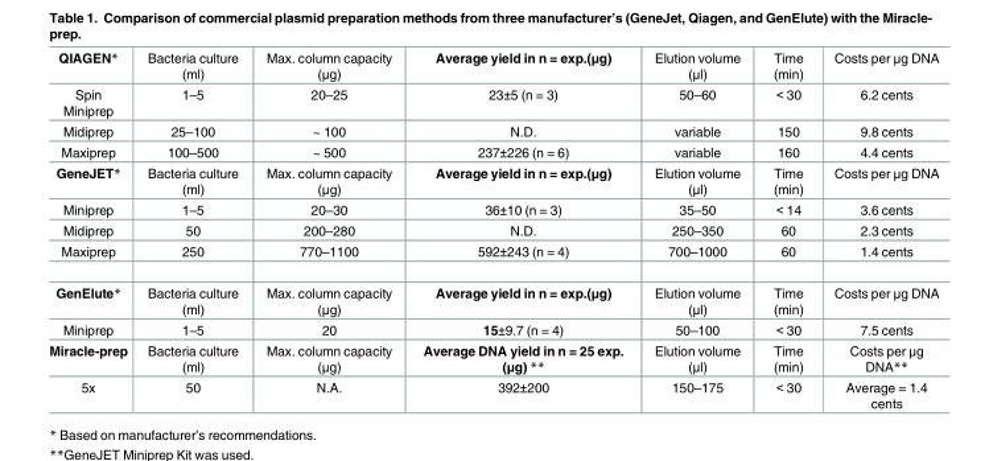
<table><tbody><tr><td>QIAGEN*</td><td>Bacteria culture (ml)</td><td>Max. column capacity (μg)</td><td>Average yield in n = exp.(μg)</td><td>Elution volume (μl)</td><td>Time (min)</td><td>Costs per μg DNA</td></tr><tr><td>Spin Miniprep</td><td>1–5</td><td>20–25</td><td>23±5 (n = 3)</td><td>50–60</td><td>&lt; 30</td><td>6.2 cents</td></tr><tr><td>Midiprep</td><td>25–100</td><td>~ 100</td><td>N.D.</td><td>variable</td><td>150</td><td>9.8 cents</td></tr><tr><td>Maxiprep</td><td>100–500</td><td>~ 500</td><td>237±226 (n = 6)</td><td>variable</td><td>160</td><td>4.4 cents</td></tr><tr><td>GeneJET*</td><td>Bacteria culture (ml)</td><td>Max. column capacity (μg)</td><td>Average yield in n = exp.(μg)</td><td>Elution volume (μl)</td><td>Time (min)</td><td>Costs per μg DNA</td></tr><tr><td>Miniprep</td><td>1–5</td><td>20–30</td><td>36±10 (n = 3)</td><td>35–50</td><td>&lt; 14</td><td>3.6 cents</td></tr><tr><td>Midiprep</td><td>50</td><td>200–280</td><td>N.D.</td><td>250–350</td><td>60</td><td>2.3 cents</td></tr><tr><td>Maxiprep</td><td>250</td><td>770–1100</td><td>592±243 (n = 4)</td><td>700–1000</td><td>60</td><td>1.4 cents</td></tr><tr><td>GenElute*</td><td>Bacteria culture (ml)</td><td>Max. column capacity (μg)</td><td>Average yield in n = exp.(μg)</td><td>Elution volume (μl)</td><td>Time (min)</td><td>Costs per μg DNA</td></tr><tr><td>Miniprep</td><td>1–5</td><td>20</td><td>15±9.7 (n = 4)</td><td>50–100</td><td>&lt; 30</td><td>7.5 cents</td></tr><tr><td>Miracle-prep</td><td>Bacteria culture (ml)</td><td>Max. column capacity (μg)</td><td>Average DNA yield in n = 25 exp. (μg) **</td><td>Elution volume (μl)</td><td>Time (min)</td><td>Costs per μg DNA**</td></tr><tr><td>5x</td><td>50</td><td>N.A.</td><td>392±200</td><td>150–175</td><td>&lt; 30</td><td>Average = 1.4 cents</td></tr></tbody></table>